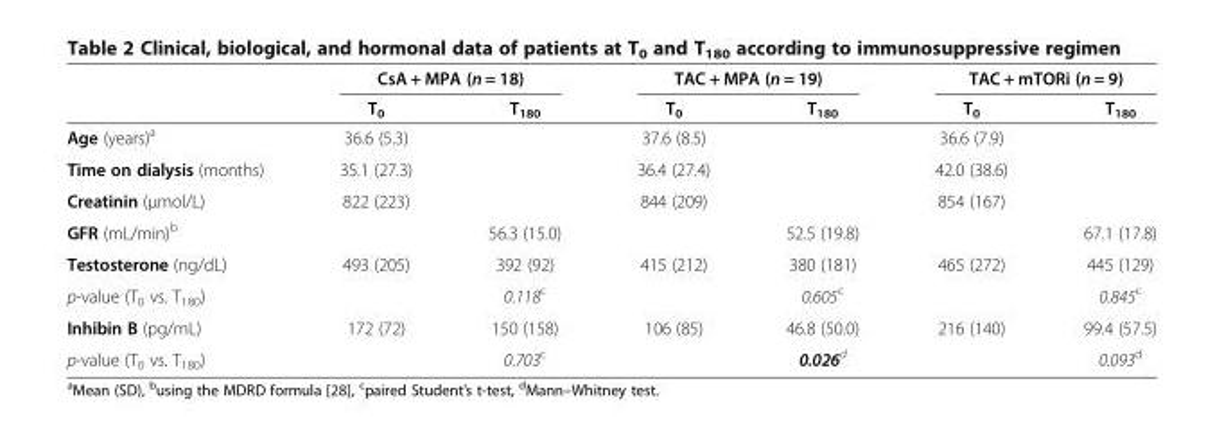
<table><thead><tr><td rowspan="2"></td><td colspan="2">CsA + MPA (n = 18)</td><td colspan="2">TAC + MPA (n = 19)</td><td colspan="2">TAC + mTORi (n = 9)</td></tr><tr><td>T<sub>0</sub></td><td>T<sub>180</sub></td><td>T<sub>0</sub></td><td>T<sub>180</sub></td><td>T<sub>0</sub></td><td>T<sub>180</sub></td></tr></thead><tbody><tr><td>Age (years)<sup>a</sup></td><td>36.6 (5.3)</td><td></td><td>37.6 (8.5)</td><td></td><td>36.6 (7.9)</td><td></td></tr><tr><td>Time on dialysis (months)</td><td>35.1 (27.3)</td><td></td><td>36.4 (27.4)</td><td></td><td>42.0 (38.6)</td><td></td></tr><tr><td>Creatinin (μmol/L)</td><td>822 (223)</td><td></td><td>844 (209)</td><td></td><td>854 (167)</td><td></td></tr><tr><td>GFR (mL/min)<sup>b</sup></td><td></td><td>56.3 (15.0)</td><td></td><td>52.5 (19.8)</td><td></td><td>67.1 (17.8)</td></tr><tr><td>Testosterone (ng/dL)</td><td>493 (205)</td><td>392 (92)</td><td>415 (212)</td><td>380 (181)</td><td>465 (272)</td><td>445 (129)</td></tr><tr><td>p-value (T<sub>0</sub> vs. T<sub>180</sub>)</td><td></td><td>0.118<sup>c</sup></td><td></td><td>0.605<sup>c</sup></td><td></td><td>0.845<sup>c</sup></td></tr><tr><td>Inhibin B (pg/mL)</td><td>172 (72)</td><td>150 (158)</td><td>106 (85)</td><td>46.8 (50.0)</td><td>216 (140)</td><td>99.4 (57.5)</td></tr><tr><td>p-value (T<sub>0</sub> vs. T<sub>180</sub>)</td><td></td><td>0.703<sup>c</sup></td><td></td><td>0.026<sup>d</sup></td><td></td><td>0.093<sup>d</sup></td></tr></tbody></table>